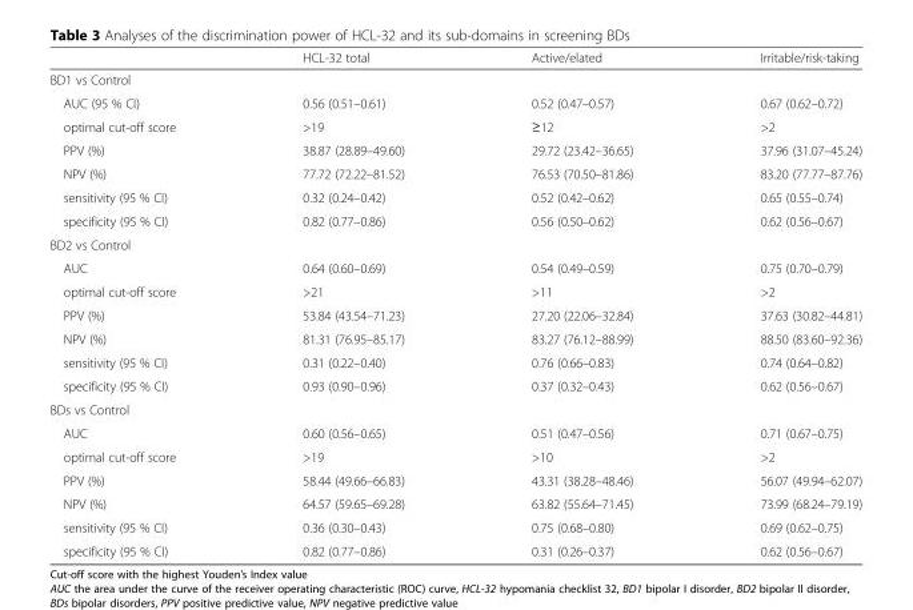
<table><thead><tr><td></td><td>HCL-32 total</td><td>Active/elated</td><td>Irritable/risk-taking</td></tr></thead><tbody><tr><td colspan="4">BD1 vs Control</td></tr><tr><td>AUC (95 % CI)</td><td>0.56 (0.51–0.61)</td><td>0.52 (0.47–0.57)</td><td>0.67 (0.62–0.72)</td></tr><tr><td>optimal cut-off score</td><td>&gt;19</td><td>≥12</td><td>&gt;2</td></tr><tr><td>PPV (%)</td><td>38.87 (28.89–49.60)</td><td>29.72 (23.42–36.65)</td><td>37.96 (31.07–45.24)</td></tr><tr><td>NPV (%)</td><td>77.72 (72.22–81.52)</td><td>76.53 (70.50–81.86)</td><td>83.20 (77.77–87.76)</td></tr><tr><td>sensitivity (95 % CI)</td><td>0.32 (0.24–0.42)</td><td>0.52 (0.42–0.62)</td><td>0.65 (0.55–0.74)</td></tr><tr><td>specificity (95 % CI)</td><td>0.82 (0.77–0.86)</td><td>0.56 (0.50–0.62)</td><td>0.62 (0.56–0.67)</td></tr><tr><td colspan="4">BD2 vs Control</td></tr><tr><td>AUC</td><td>0.64 (0.60–0.69)</td><td>0.54 (0.49–0.59)</td><td>0.75 (0.70–0.79)</td></tr><tr><td>optimal cut-off score</td><td>&gt;21</td><td>&gt;11</td><td>&gt;2</td></tr><tr><td>PPV (%)</td><td>53.84 (43.54–71.23)</td><td>27.20 (22.06–32.84)</td><td>37.63 (30.82–44.81)</td></tr><tr><td>NPV (%)</td><td>81.31 (76.95–85.17)</td><td>83.27 (76.12–88.99)</td><td>88.50 (83.60–92.36)</td></tr><tr><td>sensitivity (95 % CI)</td><td>0.31 (0.22–0.40)</td><td>0.76 (0.66–0.83)</td><td>0.74 (0.64–0.82)</td></tr><tr><td>specificity (95 % CI)</td><td>0.93 (0.90–0.96)</td><td>0.37 (0.32–0.43)</td><td>0.62 (0.56–0.67)</td></tr><tr><td colspan="4">BDs vs Control</td></tr><tr><td>AUC</td><td>0.60 (0.56–0.65)</td><td>0.51 (0.47–0.56)</td><td>0.71 (0.67–0.75)</td></tr><tr><td>optimal cut-off score</td><td>&gt;19</td><td>&gt;10</td><td>&gt;2</td></tr><tr><td>PPV (%)</td><td>58.44 (49.66–66.83)</td><td>43.31 (38.28–48.46)</td><td>56.07 (49.94–62.07)</td></tr><tr><td>NPV (%)</td><td>64.57 (59.65–69.28)</td><td>63.82 (55.64–71.45)</td><td>73.99 (68.24–79.19)</td></tr><tr><td>sensitivity (95 % CI)</td><td>0.36 (0.30–0.43)</td><td>0.75 (0.68–0.80)</td><td>0.69 (0.62–0.75)</td></tr><tr><td>specificity (95 % CI)</td><td>0.82 (0.77–0.86)</td><td>0.31 (0.26–0.37)</td><td>0.62 (0.56–0.67)</td></tr></tbody></table>